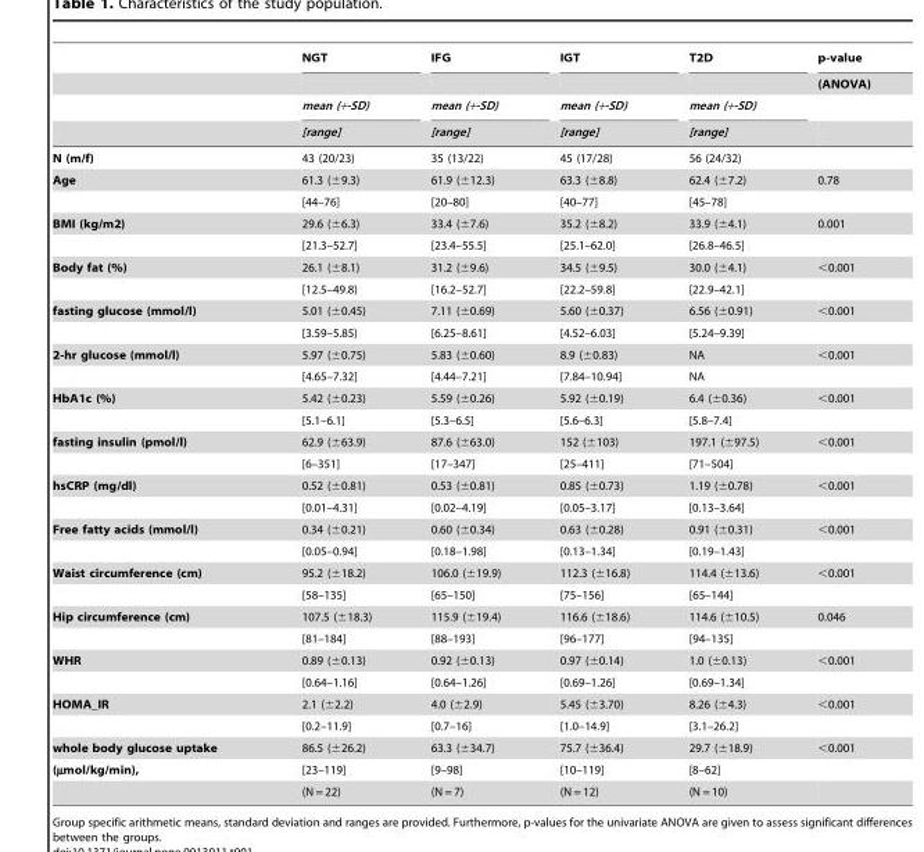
<table><thead><tr><td rowspan="4"></td><td rowspan="4">NGT mean (+-SD) [range]</td><td rowspan="4">IFG mean (+-SD) [range]</td><td rowspan="4">IGT mean (+-SD) [range]</td><td rowspan="4">T2D mean (+-SD) [range]</td><td rowspan="4">p-value (ANOVA)</td></tr><tr></tr><tr></tr><tr></tr></thead><tbody><tr><td>N (m/f)</td><td>43 (20/23)</td><td>35 (13/22)</td><td>45 (17/28)</td><td>56 (24/32)</td><td></td></tr><tr><td rowspan="2">Age</td><td>61.3 (±9.3)</td><td>61.9 (±12.3)</td><td>63.3 (±8.8)</td><td>62.4 (±7.2)</td><td>0.78</td></tr><tr><td>[44–76]</td><td>[20–80]</td><td>[40–77]</td><td>[45–78]</td><td></td></tr><tr><td rowspan="2">BMI (kg/m2)</td><td>29.6 (±6.3)</td><td>33.4 (±7.6)</td><td>35.2 (±8.2)</td><td>33.9 (±4.1)</td><td>0.001</td></tr><tr><td>[21.3–52.7]</td><td>[23.4–55.5]</td><td>[25.1–62.0]</td><td>[26.8–46.5]</td><td></td></tr><tr><td rowspan="2">Body fat (%)</td><td>26.1 (±8.1)</td><td>31.2 (±9.6)</td><td>34.5 (±9.5)</td><td>30.0 (±4.1)</td><td>&lt;0.001</td></tr><tr><td>[12.5–49.8)</td><td>[16.2–52.7]</td><td>[22.2–59.8]</td><td>[22.9–42.1]</td><td></td></tr><tr><td rowspan="2">fasting glucose (mmol/l)</td><td>5.01 (±0.45)</td><td>7.11 (±0.69)</td><td>5.60 (±0.37)</td><td>6.56 (±0.91)</td><td>&lt;0.001</td></tr><tr><td>[3.59–5.85)</td><td>[6.25–8.61]</td><td>[4.52–6.03]</td><td>[5.24–9.39]</td><td></td></tr><tr><td rowspan="2">2-hr glucose (mmol/l)</td><td>5.97 (±0.75)</td><td>5.83 (±0.60)</td><td>8.9 (±0.83)</td><td>NA</td><td>&lt;0.001</td></tr><tr><td>[4.65–7.32]</td><td>[4.44–7.21]</td><td>[7.84–10.94]</td><td>NA</td><td></td></tr><tr><td rowspan="2">HbA1c (%)</td><td>5.42 (±0.23)</td><td>5.59 (±0.26)</td><td>5.92 (±0.19)</td><td>6.4 (±0.36)</td><td>&lt;0.001</td></tr><tr><td>[5.1–6.1]</td><td>[5.3–6.5]</td><td>[5.6–6.3]</td><td>[5.8–7.4]</td><td></td></tr><tr><td rowspan="2">fasting insulin (pmol/l)</td><td>62.9 (±63.9)</td><td>87.6 (±63.0)</td><td>152 (±103)</td><td>197.1 (±97.5)</td><td>&lt;0.001</td></tr><tr><td>[6–351]</td><td>[17–347]</td><td>[25–411]</td><td>[71–504]</td><td></td></tr><tr><td rowspan="2">hsCRP (mg/dl)</td><td>0.52 (±0.81)</td><td>0.53 (±0.81)</td><td>0.85 (±0.73)</td><td>1.19 (±0.78)</td><td>&lt;0.001</td></tr><tr><td>[0.01–4.31]</td><td>[0.02–4.19]</td><td>[0.05–3.17]</td><td>[0.13–3.64]</td><td></td></tr><tr><td rowspan="2">Free fatty acids (mmol/l)</td><td>0.34 (±0.21)</td><td>0.60 (±0.34)</td><td>0.63 (±0.28)</td><td>0.91 (±0.31)</td><td>&lt;0.001</td></tr><tr><td>[0.05–0.94]</td><td>[0.18–1.98]</td><td>[0.13–1.34]</td><td>[0.19–1.43]</td><td></td></tr><tr><td rowspan="2">Waist circumference (cm)</td><td>95.2 (±18.2)</td><td>106.0 (±19.9)</td><td>112.3 (±16.8)</td><td>114.4 (±13.6)</td><td>&lt;0.001</td></tr><tr><td>[58–135]</td><td>[65–150]</td><td>[75–156]</td><td>[65–144]</td><td></td></tr><tr><td rowspan="2">Hip circumference (cm)</td><td>107.5 (±18.3)</td><td>115.9 (±19.4)</td><td>116.6 (±18.6)</td><td>114.6 (±10.5)</td><td>0.046</td></tr><tr><td>[81–184]</td><td>[88–193]</td><td>[96–177]</td><td>[94–135]</td><td></td></tr><tr><td rowspan="2">WHR</td><td>0.89 (±0.13)</td><td>0.92 (±0.13)</td><td>0.97 (±0.14)</td><td>1.0 (±0.13)</td><td>&lt;0.001</td></tr><tr><td>[0.64–1.16]</td><td>[0.64–1.26]</td><td>[0.69–1.26]</td><td>[0.69–1.34]</td><td></td></tr><tr><td rowspan="2">HOMA_IR</td><td>2.1 (±2.2)</td><td>4.0 (±2.9)</td><td>5.45 (±3.70)</td><td>8.26 (±4.3)</td><td>&lt;0.001</td></tr><tr><td>[0.2–11.9]</td><td>[0.7–16]</td><td>[1.0–14.9]</td><td>[3.1–26.2]</td><td></td></tr><tr><td>whole body glucose uptake</td><td>86.5 (±26.2)</td><td>63.3 (±34.7)</td><td>75.7 (±36.4)</td><td>29.7 (±18.9)</td><td>&lt;0.001</td></tr><tr><td rowspan="2">(µmol/kg/min),</td><td>[23–119]</td><td>[9–98]</td><td>[10–119]</td><td>[8–62]</td><td></td></tr><tr><td>(N = 22)</td><td>(N = 7)</td><td>(N = 12)</td><td>(N = 10)</td><td></td></tr></tbody></table>